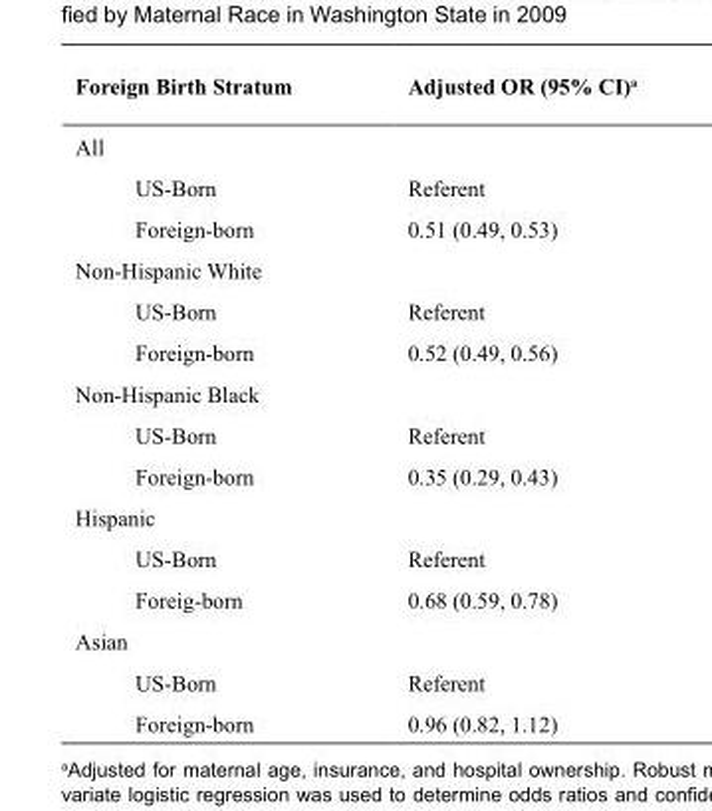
<table><thead><tr><td>Foreign Birth Stratum</td><td>Adjusted OR (95% CI)<sup>a</sup></td></tr></thead><tbody><tr><td colspan="2">All</td></tr><tr><td>US-Born</td><td>Referent</td></tr><tr><td>Foreign-born</td><td>0.51 (0.49, 0.53)</td></tr><tr><td colspan="2">Non-Hispanic White</td></tr><tr><td>US-Born</td><td>Referent</td></tr><tr><td>Foreign-born</td><td>0.52 (0.49, 0.56)</td></tr><tr><td colspan="2">Non-Hispanic Black</td></tr><tr><td>US-Born</td><td>Referent</td></tr><tr><td>Foreign-born</td><td>0.35 (0.29, 0.43)</td></tr><tr><td colspan="2">Hispanic</td></tr><tr><td>US-Born</td><td>Referent</td></tr><tr><td>Foreig-born</td><td>0.68 (0.59, 0.78)</td></tr><tr><td colspan="2">Asian</td></tr><tr><td>US-Born</td><td>Referent</td></tr><tr><td>Foreign-born</td><td>0.96 (0.82, 1.12)</td></tr></tbody></table>